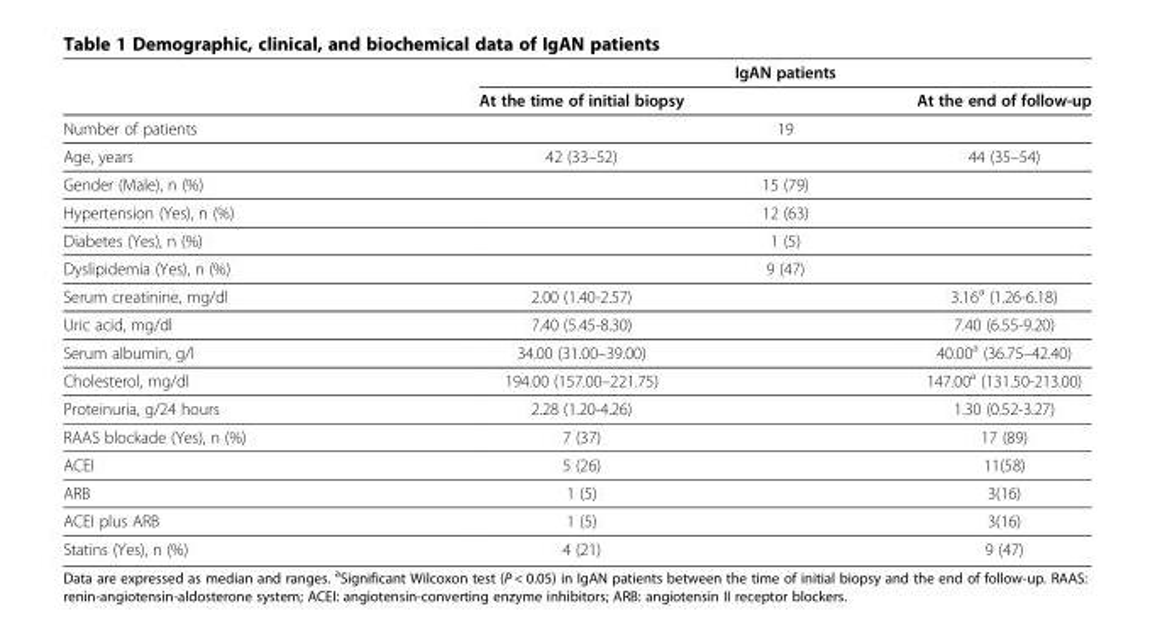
<table><thead><tr><td rowspan="2"></td><td colspan="2">IgAN patients</td></tr><tr><td>At the time of initial biopsy</td><td>At the end of follow-up</td></tr></thead><tbody><tr><td>Number of patients</td><td colspan="2">19</td></tr><tr><td>Age, years</td><td>42 (33–52)</td><td>44 (35–54)</td></tr><tr><td>Gender (Male), n (%)</td><td colspan="2">15 (79)</td></tr><tr><td>Hypertension (Yes), n (%)</td><td colspan="2">12 (63)</td></tr><tr><td>Diabetes (Yes), n (%)</td><td colspan="2">1 (5)</td></tr><tr><td>Dyslipidemia (Yes), n (%)</td><td colspan="2">9 (47)</td></tr><tr><td>Serum creatinine, mg/dl</td><td>2.00 (1.40-2.57)</td><td>3.16<sup>a</sup> (1.26-6.18)</td></tr><tr><td>Uric acid, mg/dl</td><td>7.40 (5.45-8.30)</td><td>7.40 (6.55-9.20)</td></tr><tr><td>Serum albumin, g/l</td><td>34.00 (31.00–39.00)</td><td>40.00<sup>a</sup> (36.75–42.40)</td></tr><tr><td>Cholesterol, mg/dl</td><td>194.00 (157.00–221.75)</td><td>147.00<sup>a</sup> (131.50-213.00)</td></tr><tr><td>Proteinuria, g/24 hours</td><td>2.28 (1.20-4.26)</td><td>1.30 (0.52-3.27)</td></tr><tr><td>RAAS blockade (Yes), n (%)</td><td>7 (37)</td><td>17 (89)</td></tr><tr><td>ACEI</td><td>5 (26)</td><td>11(58)</td></tr><tr><td>ARB</td><td>1 (5)</td><td>3(16)</td></tr><tr><td>ACEI plus ARB</td><td>1 (5)</td><td>3(16)</td></tr><tr><td>Statins (Yes), n (%)</td><td>4 (21)</td><td>9 (47)</td></tr></tbody></table>